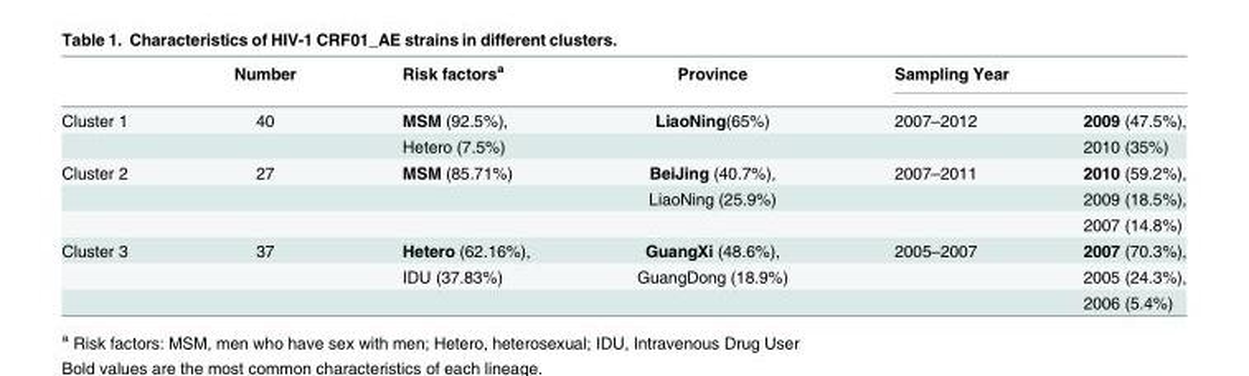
<table><thead><tr><td rowspan="2">Cluster 1</td><td rowspan="2">Number 40</td><td rowspan="2">Risk factors<sup>a</sup> MSM (92.5%),</td><td rowspan="2">Province LiaoNing(65%)</td><td colspan="2">Sampling Year</td></tr><tr><td>2007–2012</td><td>2009 (47.5%),</td></tr></thead><tbody><tr><td></td><td></td><td>Hetero (7.5%)</td><td></td><td></td><td>2010 (35%)</td></tr><tr><td rowspan="3">Cluster 2</td><td>27</td><td>MSM (85.71%)</td><td>BeiJing (40.7%),</td><td>2007–2011</td><td>2010 (59.2%),</td></tr><tr><td></td><td></td><td>LiaoNing (25.9%)</td><td></td><td>2009 (18.5%),</td></tr><tr><td></td><td></td><td></td><td></td><td>2007 (14.8%)</td></tr><tr><td rowspan="3">Cluster 3</td><td>37</td><td>Hetero (62.16%),</td><td>GuangXi (48.6%),</td><td>2005–2007</td><td>2007 (70.3%),</td></tr><tr><td></td><td>IDU (37.83%)</td><td>GuangDong (18.9%)</td><td></td><td>2005 (24.3%),</td></tr><tr><td></td><td></td><td></td><td></td><td>2006 (5.4%)</td></tr></tbody></table>